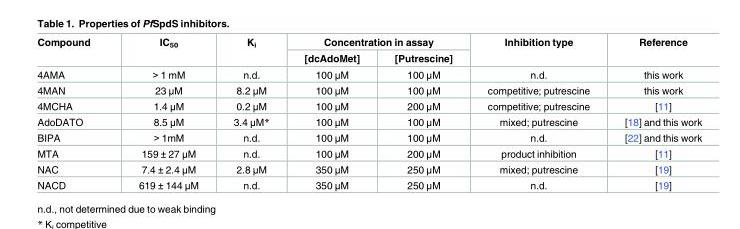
<table><thead><tr><td rowspan="2">Compound</td><td rowspan="2">IC<sub>50</sub></td><td rowspan="2">K<sub>i</sub></td><td colspan="2">Concentration in assay</td><td rowspan="2">Inhibition type</td><td rowspan="2">Reference</td></tr><tr><td>[dcAdoMet]</td><td>[Putrescine]</td></tr></thead><tbody><tr><td>4AMA</td><td>&gt; 1 mM</td><td>n.d.</td><td>100 μM</td><td>100 μM</td><td>n.d.</td><td>this work</td></tr><tr><td>4MAN</td><td>23 μM</td><td>8.2 μM</td><td>100 μM</td><td>100 μM</td><td>competitive; putrescine</td><td>this work</td></tr><tr><td>4MCHA</td><td>1.4 μM</td><td>0.2 μM</td><td>100 μM</td><td>200 μM</td><td>competitive; putrescine</td><td>[11]</td></tr><tr><td>AdoDATO</td><td>8.5 μM</td><td>3.4 μM*</td><td>100 μM</td><td>100 μM</td><td>mixed; putrescine</td><td>[18] and this work</td></tr><tr><td>BIPA</td><td>&gt; 1mM</td><td>n.d.</td><td>100 μM</td><td>100 μM</td><td>n.d.</td><td>[22] and this work</td></tr><tr><td>MTA</td><td>159 ± 27 μM</td><td>n.d.</td><td>100 μM</td><td>200 μM</td><td>product inhibition</td><td>[11]</td></tr><tr><td>NAC</td><td>7.4 ± 2.4 μM</td><td>2.8 μM</td><td>350 μM</td><td>250 μM</td><td>mixed; putrescine</td><td>[19]</td></tr><tr><td>NACD</td><td>619 ± 144 μM</td><td>n.d.</td><td>350 μM</td><td>250 μM</td><td>n.d.</td><td>[19]</td></tr></tbody></table>